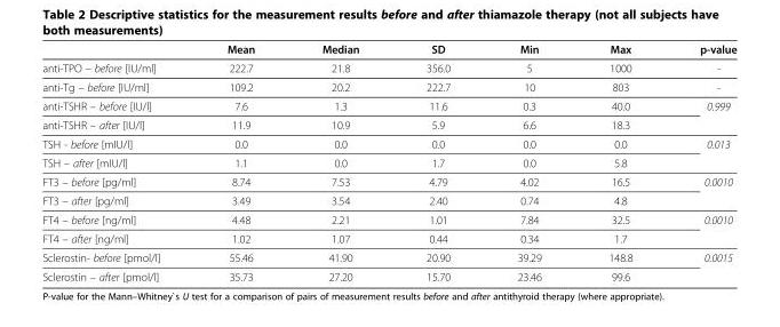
<table><thead><tr><td></td><td>Mean</td><td>Median</td><td>SD</td><td>Min</td><td>Max</td><td>p-value</td></tr></thead><tbody><tr><td>anti-TPO – before [IU/ml]</td><td>222.7</td><td>21.8</td><td>356.0</td><td>5</td><td>1000</td><td>-</td></tr><tr><td>anti-Tg – before [IU/ml]</td><td>109.2</td><td>20.2</td><td>222.7</td><td>10</td><td>803</td><td>-</td></tr><tr><td>anti-TSHR – before [IU/l]</td><td>7.6</td><td>1.3</td><td>11.6</td><td>0.3</td><td>40.0</td><td>0.999</td></tr><tr><td>anti-TSHR – after [IU/l]</td><td>11.9</td><td>10.9</td><td>5.9</td><td>6.6</td><td>18.3</td><td></td></tr><tr><td>TSH - before [mIU/l]</td><td>0.0</td><td>0.0</td><td>0.0</td><td>0.0</td><td>0.0</td><td>0.013</td></tr><tr><td>TSH – after [mIU/l]</td><td>1.1</td><td>0.0</td><td>1.7</td><td>0.0</td><td>5.8</td><td></td></tr><tr><td>FT3 – before [pg/ml]</td><td>8.74</td><td>7.53</td><td>4.79</td><td>4.02</td><td>16.5</td><td>0.0010</td></tr><tr><td>FT3 – after [pg/ml]</td><td>3.49</td><td>3.54</td><td>2.40</td><td>0.74</td><td>4.8</td><td></td></tr><tr><td>FT4 – before [ng/ml]</td><td>4.48</td><td>2.21</td><td>1.01</td><td>7.84</td><td>32.5</td><td>0.0010</td></tr><tr><td>FT4 – after [ng/ml]</td><td>1.02</td><td>1.07</td><td>0.44</td><td>0.34</td><td>1.7</td><td></td></tr><tr><td>Sclerostin- before [pmol/l]</td><td>55.46</td><td>41.90</td><td>20.90</td><td>39.29</td><td>148.8</td><td>0.0015</td></tr><tr><td>Sclerostin – after [pmol/l]</td><td>35.73</td><td>27.20</td><td>15.70</td><td>23.46</td><td>99.6</td><td></td></tr></tbody></table>